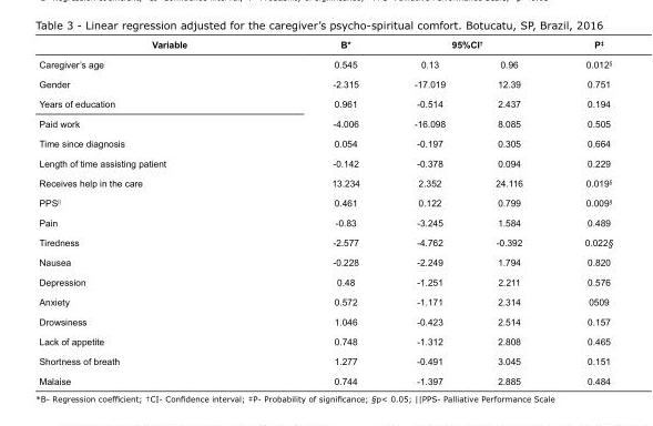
<table><tbody><tr><td>Variable</td><td>B*</td><td colspan="2">95%CI<sup>†</sup></td><td>P<sup>‡</sup></td></tr><tr><td>Caregiver’s age</td><td>0.545</td><td>0.13</td><td>0.96</td><td>0.012<sup>§</sup></td></tr><tr><td>Gender</td><td>-2.315</td><td>-17.019</td><td>12.39</td><td>0.751</td></tr><tr><td>Years of education</td><td>0.961</td><td>-0.514</td><td>2.437</td><td>0.194</td></tr><tr><td>Paid work</td><td>-4.006</td><td>-16.098</td><td>8.085</td><td>0.505</td></tr><tr><td>Time since diagnosis</td><td>0.054</td><td>-0.197</td><td>0.305</td><td>0.664</td></tr><tr><td>Length of time assisting patient</td><td>-0.142</td><td>-0.378</td><td>0.094</td><td>0.229</td></tr><tr><td>Receives help in the care</td><td>13.234</td><td>2.352</td><td>24.116</td><td>0.019<sup>§</sup></td></tr><tr><td>PPS<sup>||</sup></td><td>0.461</td><td>0.122</td><td>0.799</td><td>0.009<sup>§</sup></td></tr><tr><td>Pain</td><td>-0.83</td><td>-3.245</td><td>1.584</td><td>0.489</td></tr><tr><td>Tiredness</td><td>-2.577</td><td>-4.762</td><td>-0.392</td><td>0.022§</td></tr><tr><td>Nausea</td><td>-0.228</td><td>-2.249</td><td>1.794</td><td>0.820</td></tr><tr><td>Depression</td><td>0.48</td><td>-1.251</td><td>2.211</td><td>0.576</td></tr><tr><td>Anxiety</td><td>0.572</td><td>-1.171</td><td>2.314</td><td>0509</td></tr><tr><td>Drowsiness</td><td>1.046</td><td>-0.423</td><td>2.514</td><td>0.157</td></tr><tr><td>Lack of appetite</td><td>0.748</td><td>-1.312</td><td>2.808</td><td>0.465</td></tr><tr><td>Shortness of breath</td><td>1.277</td><td>-0.491</td><td>3.045</td><td>0.151</td></tr><tr><td>Malaise</td><td>0.744</td><td>-1.397</td><td>2.885</td><td>0.484</td></tr></tbody></table>